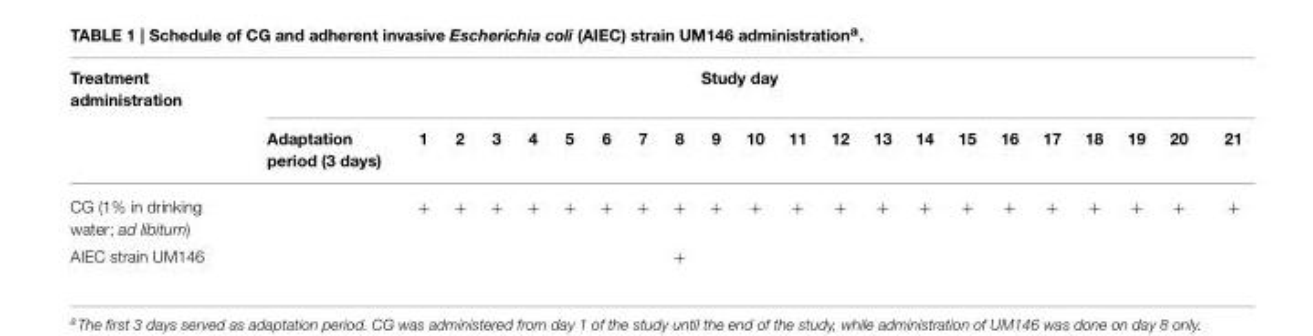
<table><thead><tr><td rowspan="2">Treatment administration</td><td colspan="22">Study day</td></tr><tr><td>Adaptation period (3 days)</td><td>1</td><td>2</td><td>3</td><td>4</td><td>5</td><td>6</td><td>7</td><td>8</td><td>9</td><td>10</td><td>11</td><td>12</td><td>13</td><td>14</td><td>15</td><td>16</td><td>17</td><td>18</td><td>19</td><td>20</td><td>21</td></tr></thead><tbody><tr><td>CG (1% in drinking water; ad libitum)</td><td></td><td>+</td><td>+</td><td>+</td><td>+</td><td>+</td><td>+</td><td>+</td><td>+</td><td>+</td><td>+</td><td>+</td><td>+</td><td>+</td><td>+</td><td>+</td><td>+</td><td>+</td><td>+</td><td>+</td><td>+</td><td>+</td></tr><tr><td>AIEC strain UM146</td><td></td><td></td><td></td><td></td><td></td><td></td><td></td><td></td><td>+</td><td></td><td></td><td></td><td></td><td></td><td></td><td></td><td></td><td></td><td></td><td></td><td></td><td></td></tr></tbody></table>